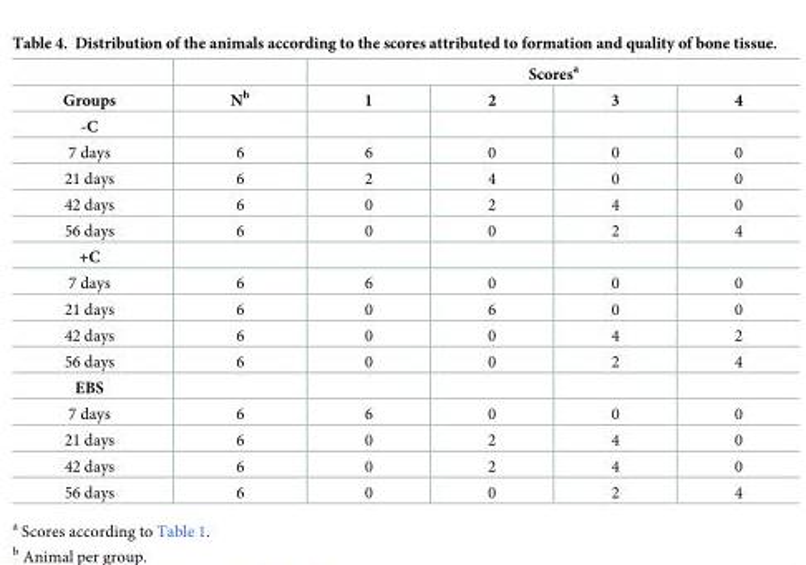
<table><thead><tr><td rowspan="2">Groups</td><td rowspan="2">N<sup>b</sup></td><td colspan="4">Scores<sup>a</sup></td></tr><tr><td>1</td><td>2</td><td>3</td><td>4</td></tr></thead><tbody><tr><td colspan="6">-C</td></tr><tr><td>7 days</td><td>6</td><td>6</td><td>0</td><td>0</td><td>0</td></tr><tr><td>21 days</td><td>6</td><td>2</td><td>4</td><td>0</td><td>0</td></tr><tr><td>42 days</td><td>6</td><td>0</td><td>2</td><td>4</td><td>0</td></tr><tr><td>56 days</td><td>6</td><td>0</td><td>0</td><td>2</td><td>4</td></tr><tr><td colspan="6">+C</td></tr><tr><td>7 days</td><td>6</td><td>6</td><td>0</td><td>0</td><td>0</td></tr><tr><td>21 days</td><td>6</td><td>0</td><td>6</td><td>0</td><td>0</td></tr><tr><td>42 days</td><td>6</td><td>0</td><td>0</td><td>4</td><td>2</td></tr><tr><td>56 days</td><td>6</td><td>0</td><td>0</td><td>2</td><td>4</td></tr><tr><td colspan="6">EBS</td></tr><tr><td>7 days</td><td>6</td><td>6</td><td>0</td><td>0</td><td>0</td></tr><tr><td>21 days</td><td>6</td><td>0</td><td>2</td><td>4</td><td>0</td></tr><tr><td>42 days</td><td>6</td><td>0</td><td>2</td><td>4</td><td>0</td></tr><tr><td>56 days</td><td>6</td><td>0</td><td>0</td><td>2</td><td>4</td></tr></tbody></table>